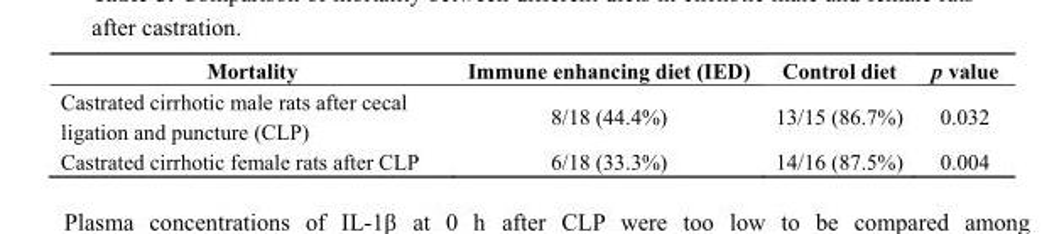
<table><thead><tr><td>Mortality</td><td>Immune enhancing diet (IED)</td><td>Control diet</td><td>p value</td></tr></thead><tbody><tr><td>Castrated cirrhotic male rats after cecal ligation and puncture (CLP)</td><td>8/18 (44.4%)</td><td>13/15 (86.7%)</td><td>0.032</td></tr><tr><td>Castrated cirrhotic female rats after CLP</td><td>6/18 (33.3%)</td><td>14/16 (87.5%)</td><td>0.004</td></tr></tbody></table>